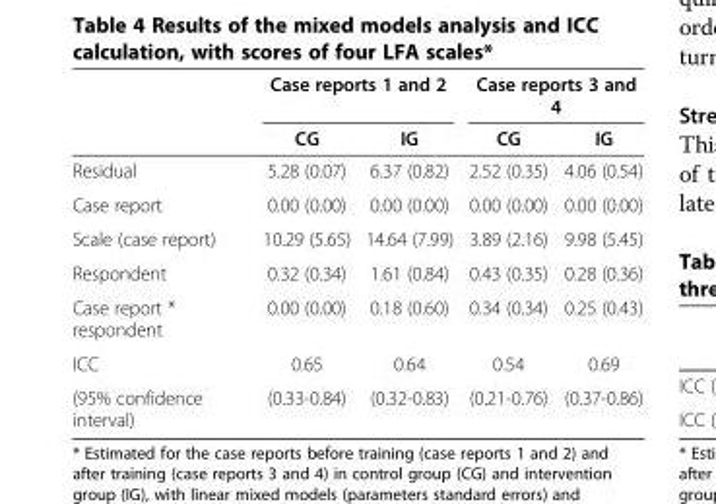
<table><thead><tr><td rowspan="2"></td><td colspan="2">Case reports 1 and 2</td><td colspan="2">Case reports 3 and 4</td></tr><tr><td>CG</td><td>IG</td><td>CG</td><td>IG</td></tr></thead><tbody><tr><td>Residual</td><td>5.28 (0.07)</td><td>6.37 (0.82)</td><td>2.52 (0.35)</td><td>4.06 (0.54)</td></tr><tr><td>Case report</td><td>0.00 (0.00)</td><td>0.00 (0.00)</td><td>0.00 (0.00)</td><td>0.00 (0.00)</td></tr><tr><td>Scale (case report)</td><td>10.29 (5.65)</td><td>14.64 (7.99)</td><td>3.89 (2.16)</td><td>9.98 (5.45)</td></tr><tr><td>Respondent</td><td>0.32 (0.34)</td><td>1.61 (0.84)</td><td>0.43 (0.35)</td><td>0.28 (0.36)</td></tr><tr><td>Case report * respondent</td><td>0.00 (0.00)</td><td>0.18 (0.60)</td><td>0.34 (0.34)</td><td>0.25 (0.43)</td></tr><tr><td>ICC</td><td>0.65</td><td>0.64</td><td>0.54</td><td>0.69</td></tr><tr><td>(95% confidence interval)</td><td>(0.33-0.84)</td><td>(0.32-0.83)</td><td>(0.21-0.76)</td><td>(0.37-0.86)</td></tr></tbody></table>